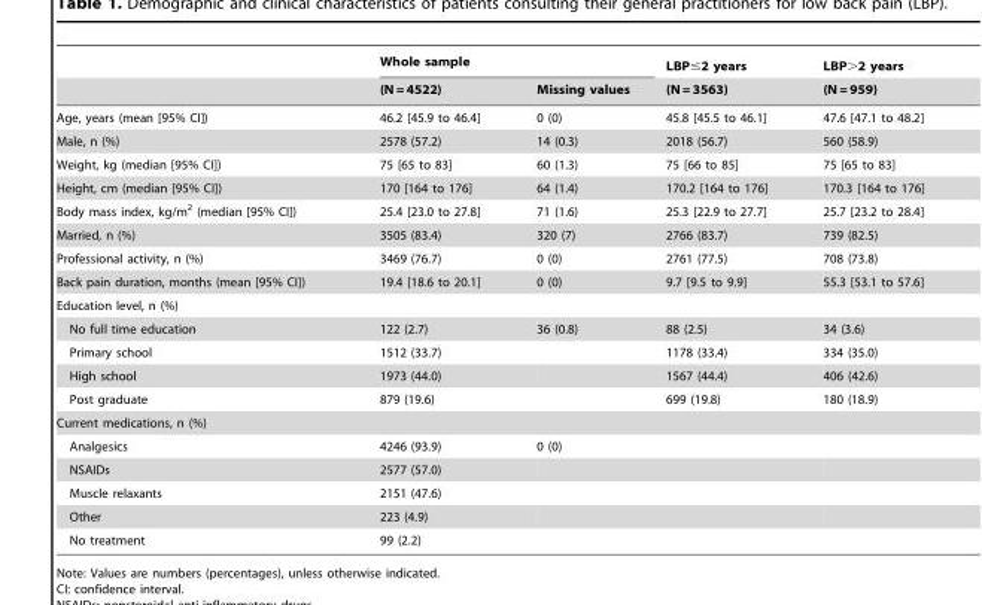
<table><thead><tr><td rowspan="2"></td><td colspan="2">Whole sample</td><td rowspan="2">LBP≤2 years (N = 3563)</td><td rowspan="2">LBP&gt;2 years (N = 959)</td></tr><tr><td>(N = 4522)</td><td>Missing values</td></tr></thead><tbody><tr><td>Age, years (mean [95% CI])</td><td>46.2 [45.9 to 46.4]</td><td>0 (0)</td><td>45.8 [45.5 to 46.1]</td><td>47.6 [47.1 to 48.2]</td></tr><tr><td>Male, n (%)</td><td>2578 (57.2)</td><td>14 (0.3)</td><td>2018 (56.7)</td><td>560 (58.9)</td></tr><tr><td>Weight, kg (median [95% CI])</td><td>75 [65 to 83]</td><td>60 (1.3)</td><td>75 [66 to 85]</td><td>75 [65 to 83]</td></tr><tr><td>Height, cm (median [95% CI])</td><td>170 [164 to 176]</td><td>64 (1.4)</td><td>170.2 [164 to 176]</td><td>170.3 [164 to 176]</td></tr><tr><td>Body mass index, kg/m<sup>2</sup> (median [95% CI])</td><td>25.4 [23.0 to 27.8]</td><td>71 (1.6)</td><td>25.3 [22.9 to 27.7]</td><td>25.7 [23.2 to 28.4]</td></tr><tr><td>Married, n (%)</td><td>3505 (83.4)</td><td>320 (7)</td><td>2766 (83.7)</td><td>739 (82.5)</td></tr><tr><td>Professional activity, n (%)</td><td>3469 (76.7)</td><td>0 (0)</td><td>2761 (77.5)</td><td>708 (73.8)</td></tr><tr><td>Back pain duration, months (mean [95% CI])</td><td>19.4 [18.6 to 20.1]</td><td>0 (0)</td><td>9.7 [9.5 to 9.9]</td><td>55.3 [53.1 to 57.6]</td></tr><tr><td colspan="5">Education level, n (%)</td></tr><tr><td>No full time education</td><td>122 (2.7)</td><td>36 (0.8)</td><td>88 (2.5)</td><td>34 (3.6)</td></tr><tr><td>Primary school</td><td>1512 (33.7)</td><td></td><td>1178 (33.4)</td><td>334 (35.0)</td></tr><tr><td>High school</td><td>1973 (44.0)</td><td></td><td>1567 (44.4)</td><td>406 (42.6)</td></tr><tr><td>Post graduate</td><td>879 (19.6)</td><td></td><td>699 (19.8)</td><td>180 (18.9)</td></tr><tr><td colspan="5">Current medications, n (%)</td></tr><tr><td>Analgesics</td><td>4246 (93.9)</td><td>0 (0)</td><td></td><td></td></tr><tr><td>NSAIDs</td><td>2577 (57.0)</td><td></td><td></td><td></td></tr><tr><td>Muscle relaxants</td><td>2151 (47.6)</td><td></td><td></td><td></td></tr><tr><td>Other</td><td>223 (4.9)</td><td></td><td></td><td></td></tr><tr><td>No treatment</td><td>99 (2.2)</td><td></td><td></td><td></td></tr></tbody></table>